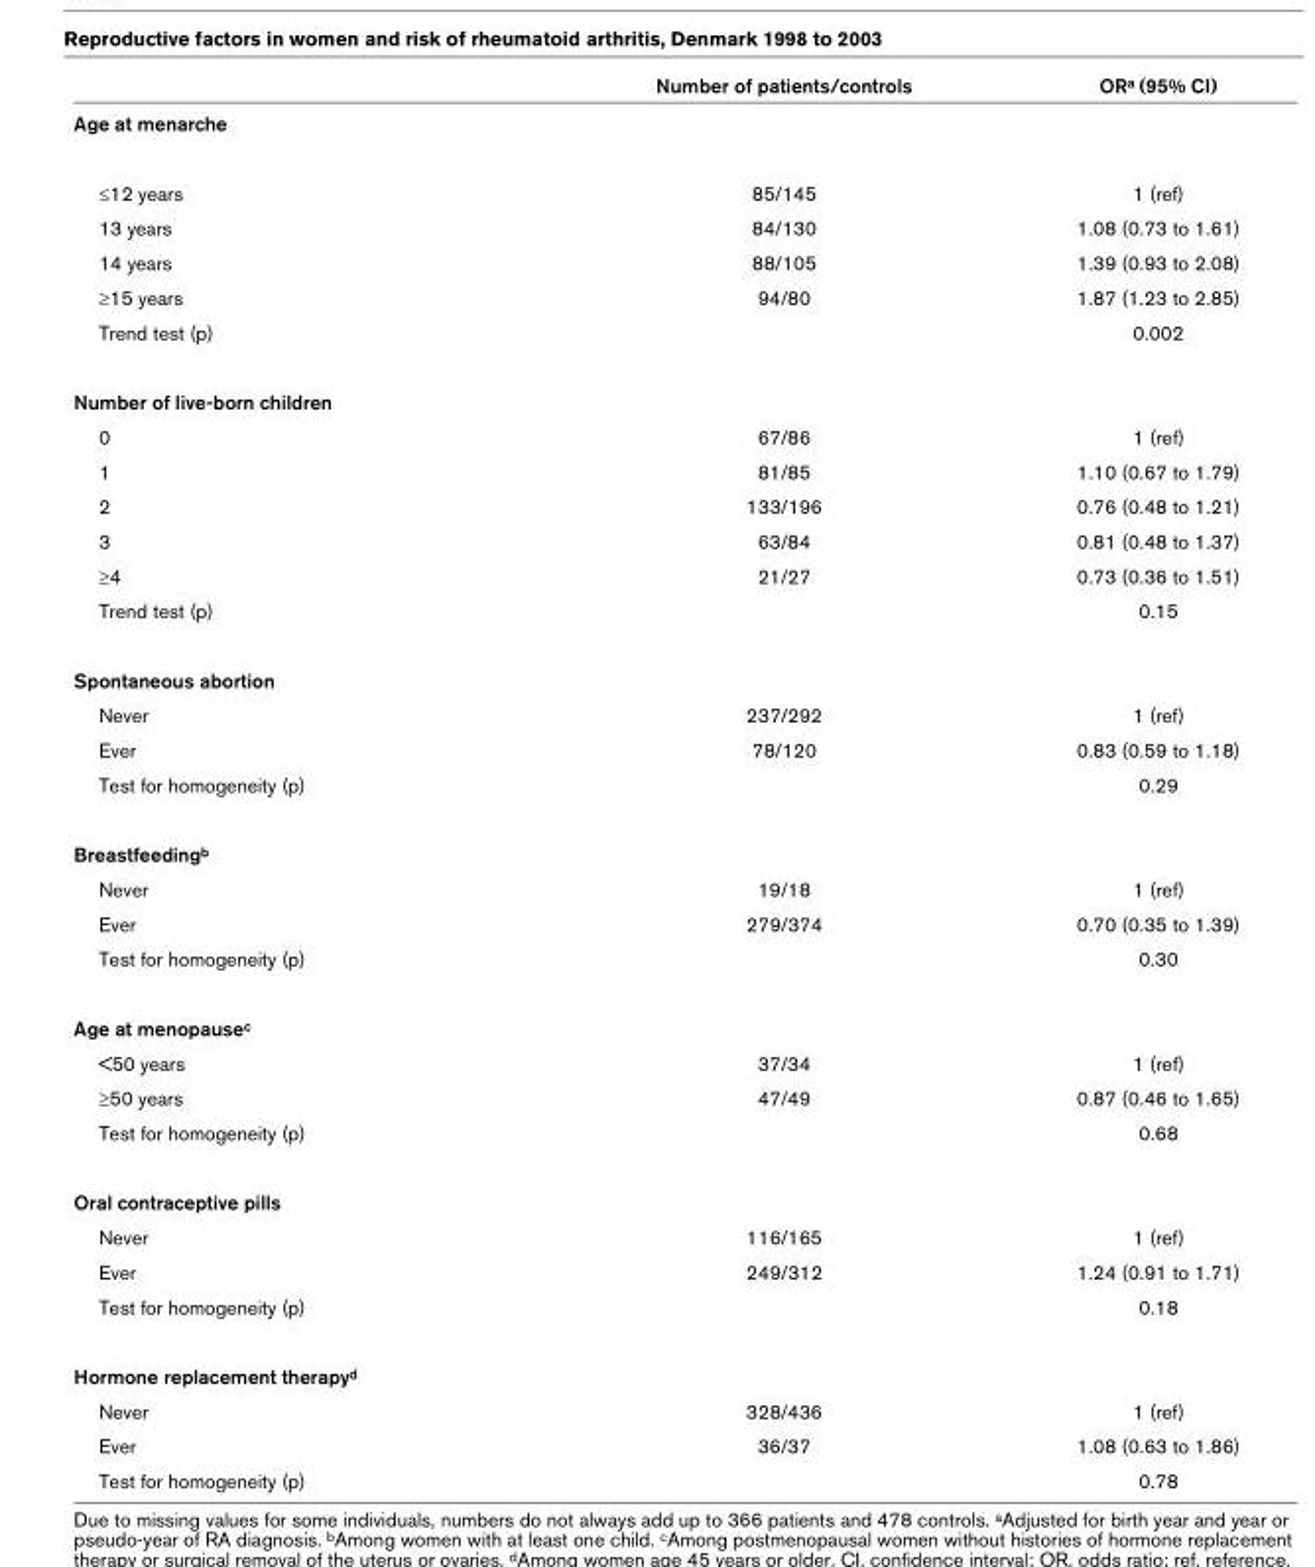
<table><thead><tr><td></td><td>Number of patients/controls</td><td>ORa (95% CI)</td></tr></thead><tbody><tr><td colspan="3">Age at menarche</td></tr><tr><td>≤12 years</td><td>85/145</td><td>1 (ref)</td></tr><tr><td>13 years</td><td>84/130</td><td>1.08 (0.73 to 1.61)</td></tr><tr><td>14 years</td><td>88/105</td><td>1.39 (0.93 to 2.08)</td></tr><tr><td>≥15 years</td><td>94/80</td><td>1.87 (1.23 to 2.85)</td></tr><tr><td>Trend test (p)</td><td></td><td>0.002</td></tr><tr><td colspan="3">Number of live-born children</td></tr><tr><td>0</td><td>67/86</td><td>1 (ref)</td></tr><tr><td>1</td><td>81/85</td><td>1.10 (0.67 to 1.79)</td></tr><tr><td>2</td><td>133/196</td><td>0.76 (0.48 to 1.21)</td></tr><tr><td>3</td><td>63/84</td><td>0.81 (0.48 to 1.37)</td></tr><tr><td>≥4</td><td>21/27</td><td>0.73 (0.36 to 1.51)</td></tr><tr><td>Trend test (p)</td><td></td><td>0.15</td></tr><tr><td colspan="3">Spontaneous abortion</td></tr><tr><td>Never</td><td>237/292</td><td>1 (ref)</td></tr><tr><td>Ever</td><td>78/120</td><td>0.83 (0.59 to 1.18)</td></tr><tr><td>Test for homogeneity (p)</td><td></td><td>0.29</td></tr><tr><td colspan="3">Breastfeedingb</td></tr><tr><td>Never</td><td>19/18</td><td>1 (ref)</td></tr><tr><td>Ever</td><td>279/374</td><td>0.70 (0.35 to 1.39)</td></tr><tr><td>Test for homogeneity (p)</td><td></td><td>0.30</td></tr><tr><td colspan="3">Age at menopausec</td></tr><tr><td>&lt;50 years</td><td>37/34</td><td>1 (ref)</td></tr><tr><td>≥50 years</td><td>47/49</td><td>0.87 (0.46 to 1.65)</td></tr><tr><td>Test for homogeneity (p)</td><td></td><td>0.68</td></tr><tr><td colspan="3">Oral contraceptive pills</td></tr><tr><td>Never</td><td>116/165</td><td>1 (ref)</td></tr><tr><td>Ever</td><td>249/312</td><td>1.24 (0.91 to 1.71)</td></tr><tr><td>Test for homogeneity (p)</td><td></td><td>0.18</td></tr><tr><td colspan="3">Hormone replacement therapyd</td></tr><tr><td>Never</td><td>328/436</td><td>1 (ref)</td></tr><tr><td>Ever</td><td>36/37</td><td>1.08 (0.63 to 1.86)</td></tr><tr><td>Test for homogeneity (p)</td><td></td><td>0.78</td></tr></tbody></table>